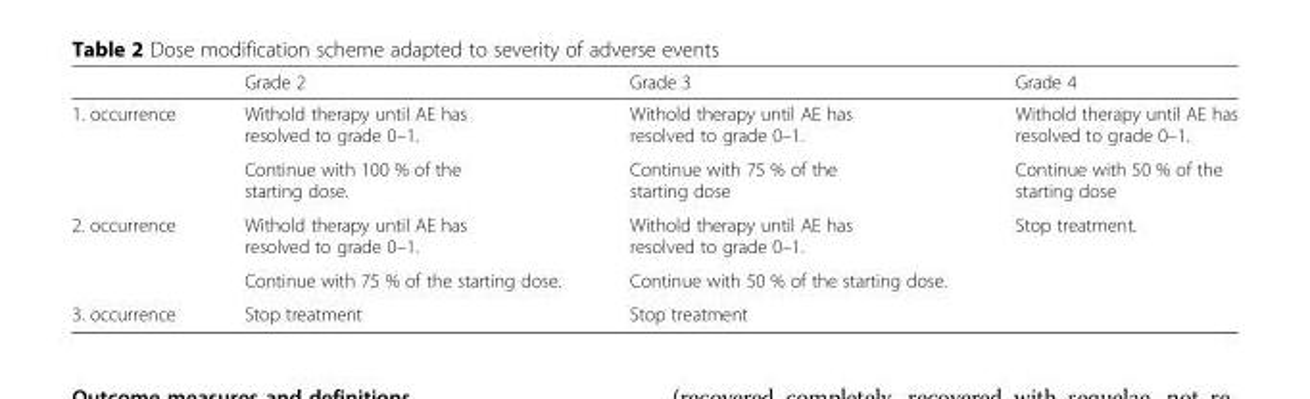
<table><thead><tr><td></td><td>Grade 2</td><td>Grade 3</td><td>Grade 4</td></tr></thead><tbody><tr><td rowspan="2">1. occurrence</td><td>Withold therapy until AE has resolved to grade 0–1.</td><td>Withold therapy until AE has resolved to grade 0–1.</td><td>Withold therapy until AE has resolved to grade 0–1.</td></tr><tr><td>Continue with 100 % of the starting dose.</td><td>Continue with 75 % of the starting dose</td><td>Continue with 50 % of the starting dose</td></tr><tr><td rowspan="2">2. occurrence</td><td>Withold therapy until AE has resolved to grade 0–1.</td><td>Withold therapy until AE has resolved to grade 0–1.</td><td rowspan="2">Stop treatment.</td></tr><tr><td>Continue with 75 % of the starting dose.</td><td>Continue with 50 % of the starting dose.</td></tr><tr><td>3. occurrence</td><td>Stop treatment</td><td>Stop treatment</td><td></td></tr></tbody></table>